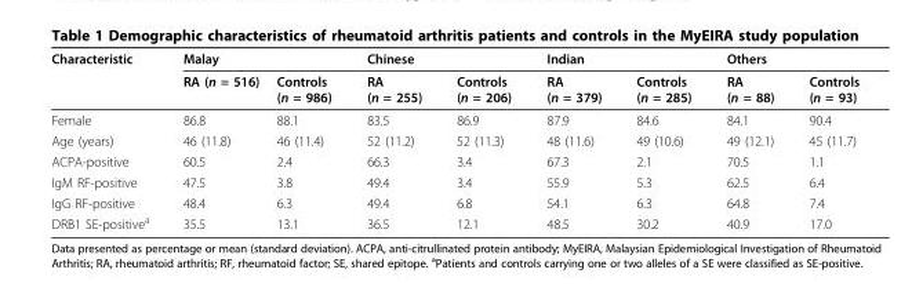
<table><thead><tr><td rowspan="2">Characteristic</td><td colspan="2">Malay</td><td colspan="2">Chinese</td><td colspan="2">Indian</td><td colspan="2">Others</td></tr><tr><td>RA (n = 516)</td><td>Controls (n = 986)</td><td>RA (n = 255)</td><td>Controls (n = 206)</td><td>RA (n = 379)</td><td>Controls (n = 285)</td><td>RA (n = 88)</td><td>Controls (n = 93)</td></tr></thead><tbody><tr><td>Female</td><td>86.8</td><td>88.1</td><td>83.5</td><td>86.9</td><td>87.9</td><td>84.6</td><td>84.1</td><td>90.4</td></tr><tr><td>Age (years)</td><td>46 (11.8)</td><td>46 (11.4)</td><td>52 (11.2)</td><td>52 (11.3)</td><td>48 (11.6)</td><td>49 (10.6)</td><td>49 (12.1)</td><td>45 (11.7)</td></tr><tr><td>ACPA-positive</td><td>60.5</td><td>2.4</td><td>66.3</td><td>3.4</td><td>67.3</td><td>2.1</td><td>70.5</td><td>1.1</td></tr><tr><td>IgM RF-positive</td><td>47.5</td><td>3.8</td><td>49.4</td><td>3.4</td><td>55.9</td><td>5.3</td><td>62.5</td><td>6.4</td></tr><tr><td>IgG RF-positive</td><td>48.4</td><td>6.3</td><td>49.4</td><td>6.8</td><td>54.1</td><td>6.3</td><td>64.8</td><td>7.4</td></tr><tr><td>DRB1 SE-positive<sup>a</sup></td><td>35.5</td><td>13.1</td><td>36.5</td><td>12.1</td><td>48.5</td><td>30.2</td><td>40.9</td><td>17.0</td></tr></tbody></table>